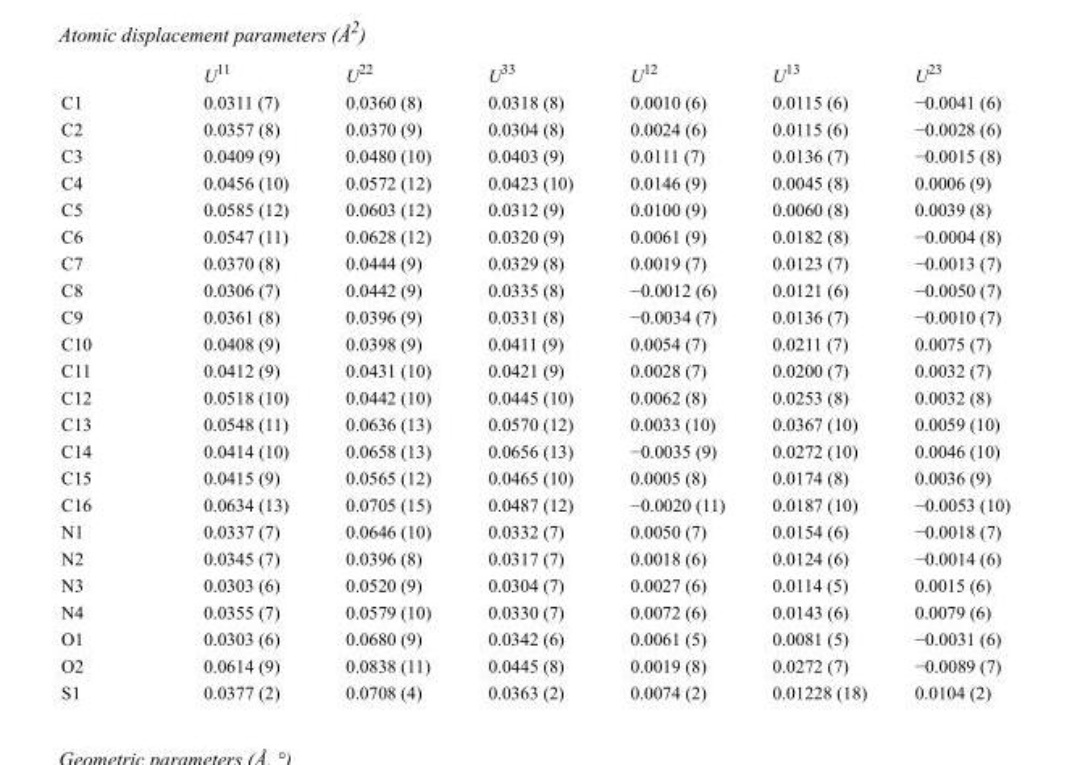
<table><thead><tr><td></td><td>U<sup>11</sup></td><td>U<sup>22</sup></td><td>U<sup>33</sup></td><td>U<sup>12</sup></td><td>U<sup>13</sup></td><td>U<sup>23</sup></td></tr></thead><tbody><tr><td>C1</td><td>0.0311 (7)</td><td>0.0360 (8)</td><td>0.0318 (8)</td><td>0.0010 (6)</td><td>0.0115 (6)</td><td>−0.0041 (6)</td></tr><tr><td>C2</td><td>0.0357 (8)</td><td>0.0370 (9)</td><td>0.0304 (8)</td><td>0.0024 (6)</td><td>0.0115 (6)</td><td>−0.0028 (6)</td></tr><tr><td>C3</td><td>0.0409 (9)</td><td>0.0480 (10)</td><td>0.0403 (9)</td><td>0.0111 (7)</td><td>0.0136 (7)</td><td>−0.0015 (8)</td></tr><tr><td>C4</td><td>0.0456 (10)</td><td>0.0572 (12)</td><td>0.0423 (10)</td><td>0.0146 (9)</td><td>0.0045 (8)</td><td>0.0006 (9)</td></tr><tr><td>C5</td><td>0.0585 (12)</td><td>0.0603 (12)</td><td>0.0312 (9)</td><td>0.0100 (9)</td><td>0.0060 (8)</td><td>0.0039 (8)</td></tr><tr><td>C6</td><td>0.0547 (11)</td><td>0.0628 (12)</td><td>0.0320 (9)</td><td>0.0061 (9)</td><td>0.0182 (8)</td><td>−0.0004 (8)</td></tr><tr><td>C7</td><td>0.0370 (8)</td><td>0.0444 (9)</td><td>0.0329 (8)</td><td>0.0019 (7)</td><td>0.0123 (7)</td><td>−0.0013 (7)</td></tr><tr><td>C8</td><td>0.0306 (7)</td><td>0.0442 (9)</td><td>0.0335 (8)</td><td>−0.0012 (6)</td><td>0.0121 (6)</td><td>−0.0050 (7)</td></tr><tr><td>C9</td><td>0.0361 (8)</td><td>0.0396 (9)</td><td>0.0331 (8)</td><td>−0.0034 (7)</td><td>0.0136 (7)</td><td>−0.0010 (7)</td></tr><tr><td>C10</td><td>0.0408 (9)</td><td>0.0398 (9)</td><td>0.0411 (9)</td><td>0.0054 (7)</td><td>0.0211 (7)</td><td>0.0075 (7)</td></tr><tr><td>C11</td><td>0.0412 (9)</td><td>0.0431 (10)</td><td>0.0421 (9)</td><td>0.0028 (7)</td><td>0.0200 (7)</td><td>0.0032 (7)</td></tr><tr><td>C12</td><td>0.0518 (10)</td><td>0.0442 (10)</td><td>0.0445 (10)</td><td>0.0062 (8)</td><td>0.0253 (8)</td><td>0.0032 (8)</td></tr><tr><td>C13</td><td>0.0548 (11)</td><td>0.0636 (13)</td><td>0.0570 (12)</td><td>0.0033 (10)</td><td>0.0367 (10)</td><td>0.0059 (10)</td></tr><tr><td>C14</td><td>0.0414 (10)</td><td>0.0658 (13)</td><td>0.0656 (13)</td><td>−0.0035 (9)</td><td>0.0272 (10)</td><td>0.0046 (10)</td></tr><tr><td>C15</td><td>0.0415 (9)</td><td>0.0565 (12)</td><td>0.0465 (10)</td><td>0.0005 (8)</td><td>0.0174 (8)</td><td>0.0036 (9)</td></tr><tr><td>C16</td><td>0.0634 (13)</td><td>0.0705 (15)</td><td>0.0487 (12)</td><td>−0.0020 (11)</td><td>0.0187 (10)</td><td>−0.0053 (10)</td></tr><tr><td>N1</td><td>0.0337 (7)</td><td>0.0646 (10)</td><td>0.0332 (7)</td><td>0.0050 (7)</td><td>0.0154 (6)</td><td>−0.0018 (7)</td></tr><tr><td>N2</td><td>0.0345 (7)</td><td>0.0396 (8)</td><td>0.0317 (7)</td><td>0.0018 (6)</td><td>0.0124 (6)</td><td>−0.0014 (6)</td></tr><tr><td>N3</td><td>0.0303 (6)</td><td>0.0520 (9)</td><td>0.0304 (7)</td><td>0.0027 (6)</td><td>0.0114 (5)</td><td>0.0015 (6)</td></tr><tr><td>N4</td><td>0.0355 (7)</td><td>0.0579 (10)</td><td>0.0330 (7)</td><td>0.0072 (6)</td><td>0.0143 (6)</td><td>0.0079 (6)</td></tr><tr><td>O1</td><td>0.0303 (6)</td><td>0.0680 (9)</td><td>0.0342 (6)</td><td>0.0061 (5)</td><td>0.0081 (5)</td><td>−0.0031 (6)</td></tr><tr><td>O2</td><td>0.0614 (9)</td><td>0.0838 (11)</td><td>0.0445 (8)</td><td>0.0019 (8)</td><td>0.0272 (7)</td><td>−0.0089 (7)</td></tr><tr><td>S1</td><td>0.0377 (2)</td><td>0.0708 (4)</td><td>0.0363 (2)</td><td>0.0074 (2)</td><td>0.01228 (18)</td><td>0.0104 (2)</td></tr></tbody></table>